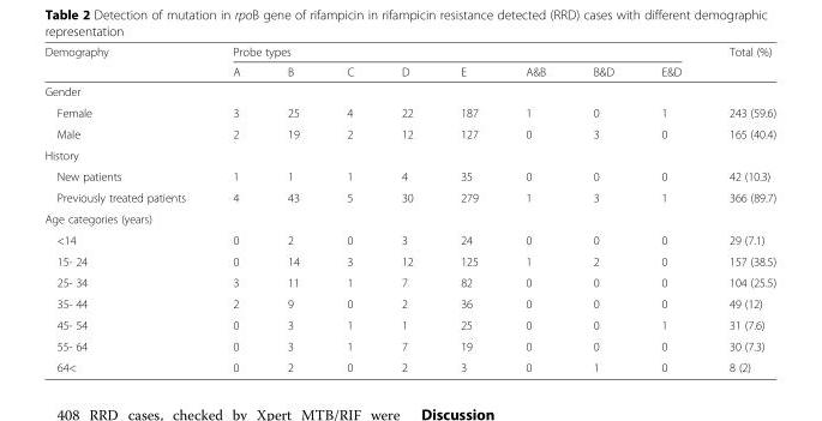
<table><thead><tr><td rowspan="2">Demography</td><td colspan="8">Probe types</td><td rowspan="2">Total (%)</td></tr><tr><td>A</td><td>B</td><td>C</td><td>D</td><td>E</td><td>A&amp;B</td><td>B&amp;D</td><td>E&amp;D</td></tr></thead><tbody><tr><td colspan="10">Gender</td></tr><tr><td>Female</td><td>3</td><td>25</td><td>4</td><td>22</td><td>187</td><td>1</td><td>0</td><td>1</td><td>243 (59.6)</td></tr><tr><td>Male</td><td>2</td><td>19</td><td>2</td><td>12</td><td>127</td><td>0</td><td>3</td><td>0</td><td>165 (40.4)</td></tr><tr><td colspan="10">History</td></tr><tr><td>New patients</td><td>1</td><td>1</td><td>1</td><td>4</td><td>35</td><td>0</td><td>0</td><td>0</td><td>42 (10.3)</td></tr><tr><td>Previously treated patients</td><td>4</td><td>43</td><td>5</td><td>30</td><td>279</td><td>1</td><td>3</td><td>1</td><td>366 (89.7)</td></tr><tr><td colspan="10">Age categories (years)</td></tr><tr><td>&lt;14</td><td>0</td><td>2</td><td>0</td><td>3</td><td>24</td><td>0</td><td>0</td><td>0</td><td>29 (7.1)</td></tr><tr><td>15- 24</td><td>0</td><td>14</td><td>3</td><td>12</td><td>125</td><td>1</td><td>2</td><td>0</td><td>157 (38.5)</td></tr><tr><td>25- 34</td><td>3</td><td>11</td><td>1</td><td>7</td><td>82</td><td>0</td><td>0</td><td>0</td><td>104 (25.5)</td></tr><tr><td>35- 44</td><td>2</td><td>9</td><td>0</td><td>2</td><td>36</td><td>0</td><td>0</td><td>0</td><td>49 (12)</td></tr><tr><td>45- 54</td><td>0</td><td>3</td><td>1</td><td>1</td><td>25</td><td>0</td><td>0</td><td>1</td><td>31 (7.6)</td></tr><tr><td>55- 64</td><td>0</td><td>3</td><td>1</td><td>7</td><td>19</td><td>0</td><td>0</td><td>0</td><td>30 (7.3)</td></tr><tr><td>64&lt;</td><td>0</td><td>2</td><td>0</td><td>2</td><td>3</td><td>0</td><td>1</td><td>0</td><td>8 (2)</td></tr></tbody></table>